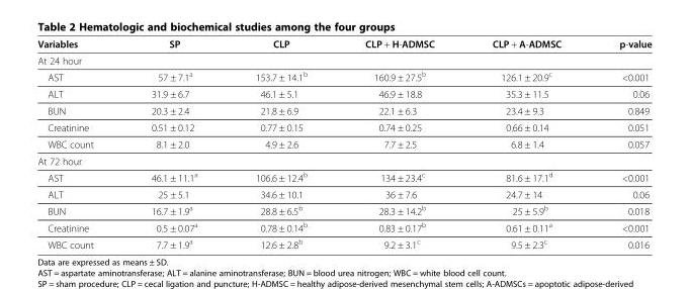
<table><thead><tr><td>Variables</td><td>SP</td><td>CLP</td><td>CLP + H-ADMSC</td><td>CLP + A-ADMSC</td><td>p-value</td></tr></thead><tbody><tr><td colspan="6">At 24 hour</td></tr><tr><td>AST</td><td>57 ± 7.1<sup>a</sup></td><td>153.7 ± 14.1<sup>b</sup></td><td>160.9 ± 27.5<sup>b</sup></td><td>126.1 ± 20.9<sup>c</sup></td><td>&lt;0.001</td></tr><tr><td>ALT</td><td>31.9 ± 6.7</td><td>46.1 ± 5.1</td><td>46.9 ± 18.8</td><td>35.3 ± 11.5</td><td>0.06</td></tr><tr><td>BUN</td><td>20.3 ± 2.4</td><td>21.8 ± 6.9</td><td>22.1 ± 6.3</td><td>23.4 ± 9.3</td><td>0.849</td></tr><tr><td>Creatinine</td><td>0.51 ± 0.12</td><td>0.77 ± 0.15</td><td>0.74 ± 0.25</td><td>0.66 ± 0.14</td><td>0.051</td></tr><tr><td>WBC count</td><td>8.1 ± 2.0</td><td>4.9 ± 2.6</td><td>7.7 ± 2.5</td><td>6.8 ± 1.4</td><td>0.057</td></tr><tr><td colspan="6">At 72 hour</td></tr><tr><td>AST</td><td>46.1 ± 11.1<sup>a</sup></td><td>106.6 ± 12.4<sup>b</sup></td><td>134 ± 23.4<sup>c</sup></td><td>81.6 ± 17.1<sup>d</sup></td><td>&lt;0.001</td></tr><tr><td>ALT</td><td>25 ± 5.1</td><td>34.6 ± 10.1</td><td>36 ± 7.6</td><td>24.7 ± 14</td><td>0.06</td></tr><tr><td>BUN</td><td>16.7 ± 1.9<sup>a</sup></td><td>28.8 ± 6.5<sup>b</sup></td><td>28.3 ± 14.2<sup>b</sup></td><td>25 ± 5.9<sup>b</sup></td><td>0.018</td></tr><tr><td>Creatinine</td><td>0.5 ± 0.07<sup>a</sup></td><td>0.78 ± 0.14<sup>b</sup></td><td>0.83 ± 0.17<sup>b</sup></td><td>0.61 ± 0.11<sup>a</sup></td><td>&lt;0.001</td></tr><tr><td>WBC count</td><td>7.7 ± 1.9<sup>a</sup></td><td>12.6 ± 2.8<sup>b</sup></td><td>9.2 ± 3.1<sup>c</sup></td><td>9.5 ± 2.3<sup>c</sup></td><td>0.016</td></tr></tbody></table>